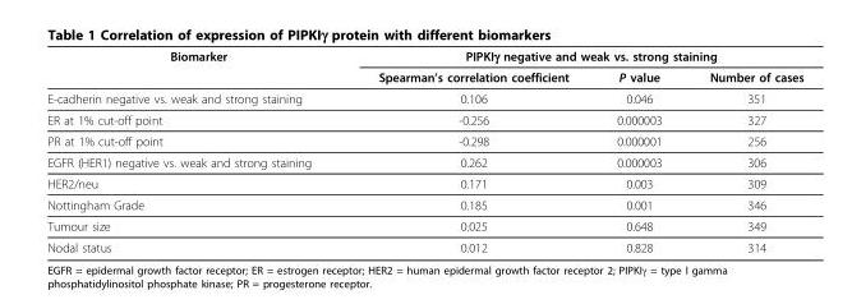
<table><thead><tr><td rowspan="2">Biomarker</td><td colspan="3">PIPKIγ negative and weak vs. strong staining</td></tr><tr><td>Spearman’s correlation coefficient</td><td>P value</td><td>Number of cases</td></tr></thead><tbody><tr><td>E-cadherin negative vs. weak and strong staining</td><td>0.106</td><td>0.046</td><td>351</td></tr><tr><td>ER at 1% cut-off point</td><td>-0.256</td><td>0.000003</td><td>327</td></tr><tr><td>PR at 1% cut-off point</td><td>-0.298</td><td>0.000001</td><td>256</td></tr><tr><td>EGFR (HER1) negative vs. weak and strong staining</td><td>0.262</td><td>0.000003</td><td>306</td></tr><tr><td>HER2/neu</td><td>0.171</td><td>0.003</td><td>309</td></tr><tr><td>Nottingham Grade</td><td>0.185</td><td>0.001</td><td>346</td></tr><tr><td>Tumour size</td><td>0.025</td><td>0.648</td><td>349</td></tr><tr><td>Nodal status</td><td>0.012</td><td>0.828</td><td>314</td></tr></tbody></table>